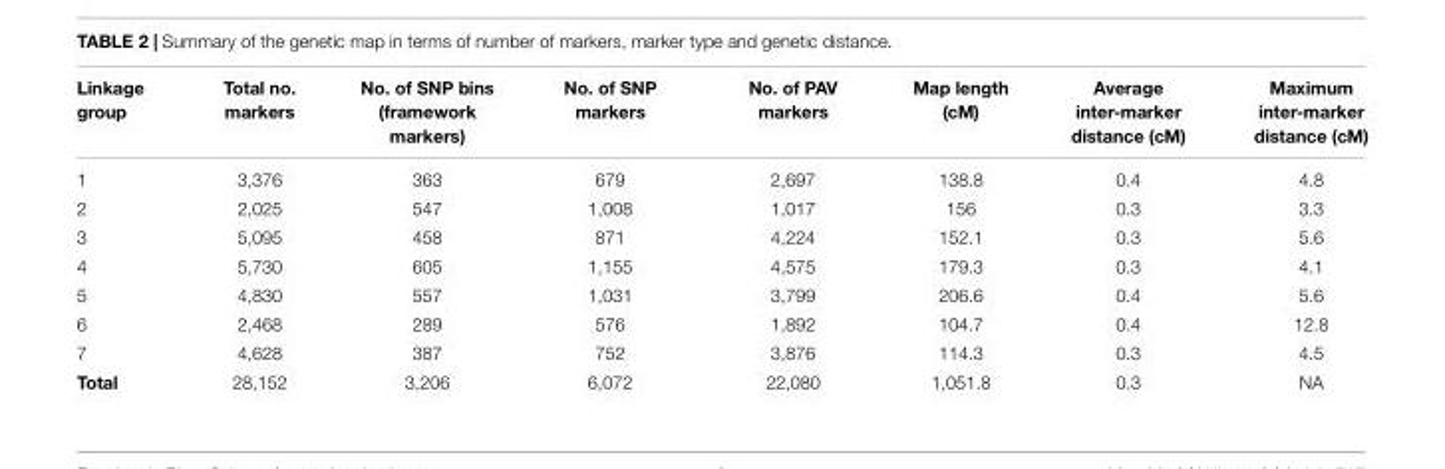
<table><thead><tr><td>Linkage group</td><td>Total no. markers</td><td>No. of SNP bins (framework markers)</td><td>No. of SNP markers</td><td>No. of PAV markers</td><td>Map length (cM)</td><td>Average inter-marker distance (cM)</td><td>Maximum inter-marker distance (cM)</td></tr></thead><tbody><tr><td>1</td><td>3,376</td><td>363</td><td>679</td><td>2,697</td><td>138.8</td><td>0.4</td><td>4.8</td></tr><tr><td>2</td><td>2,025</td><td>547</td><td>1,008</td><td>1,017</td><td>156</td><td>0.3</td><td>3.3</td></tr><tr><td>3</td><td>5,095</td><td>458</td><td>871</td><td>4,224</td><td>152.1</td><td>0.3</td><td>5.6</td></tr><tr><td>4</td><td>5,730</td><td>605</td><td>1,155</td><td>4,575</td><td>179.3</td><td>0.3</td><td>4.1</td></tr><tr><td>5</td><td>4,830</td><td>557</td><td>1,031</td><td>3,799</td><td>206.6</td><td>0.4</td><td>5.6</td></tr><tr><td>6</td><td>2,468</td><td>289</td><td>576</td><td>1,892</td><td>104.7</td><td>0.4</td><td>12.8</td></tr><tr><td>7</td><td>4,628</td><td>387</td><td>752</td><td>3,876</td><td>114.3</td><td>0.3</td><td>4.5</td></tr><tr><td>Total</td><td>28,152</td><td>3,206</td><td>6,072</td><td>22,080</td><td>1,051.8</td><td>0.3</td><td>NA</td></tr></tbody></table>